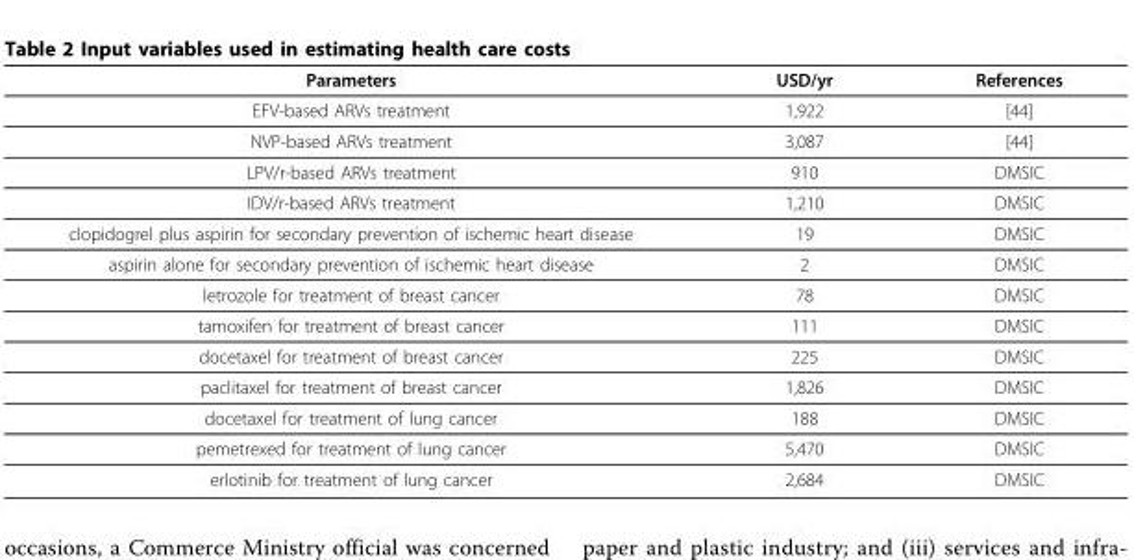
<table><thead><tr><td>Parameters</td><td>USD/yr</td><td>References</td></tr></thead><tbody><tr><td>EFV-based ARVs treatment</td><td>1,922</td><td>[44]</td></tr><tr><td>NVP-based ARVs treatment</td><td>3,087</td><td>[44]</td></tr><tr><td>LPV/r-based ARVs treatment</td><td>910</td><td>DMSIC</td></tr><tr><td>IDV/r-based ARVs treatment</td><td>1,210</td><td>DMSIC</td></tr><tr><td>clopidogrel plus aspirin for secondary prevention of ischemic heart disease</td><td>19</td><td>DMSIC</td></tr><tr><td>aspirin alone for secondary prevention of ischemic heart disease</td><td>2</td><td>DMSIC</td></tr><tr><td>letrozole for treatment of breast cancer</td><td>78</td><td>DMSIC</td></tr><tr><td>tamoxifen for treatment of breast cancer</td><td>111</td><td>DMSIC</td></tr><tr><td>docetaxel for treatment of breast cancer</td><td>225</td><td>DMSIC</td></tr><tr><td>paclitaxel for treatment of breast cancer</td><td>1,826</td><td>DMSIC</td></tr><tr><td>docetaxel for treatment of lung cancer</td><td>188</td><td>DMSIC</td></tr><tr><td>pemetrexed for treatment of lung cancer</td><td>5,470</td><td>DMSIC</td></tr><tr><td>erlotinib for treatment of lung cancer</td><td>2,684</td><td>DMSIC</td></tr></tbody></table>